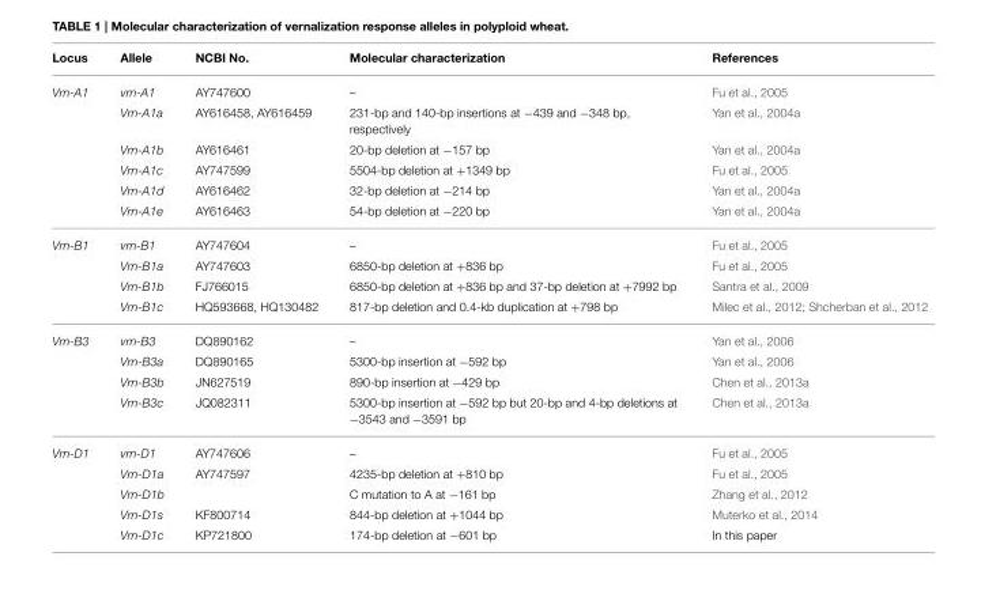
<table><thead><tr><td>Locus</td><td>Allele</td><td>NCBI No.</td><td>Molecular characterization</td><td>References</td></tr></thead><tbody><tr><td rowspan="6">Vrn-A1</td><td>vrn-A1</td><td>AY747600</td><td>–</td><td>Fu et al., 2005</td></tr><tr><td>Vrn-A1a</td><td>AY616458, AY616459</td><td>231-bp and 140-bp insertions at −439 and −348 bp, respectively</td><td>Yan et al., 2004a</td></tr><tr><td>Vrn-A1b</td><td>AY616461</td><td>20-bp deletion at −157 bp</td><td>Yan et al., 2004a</td></tr><tr><td>Vrn-A1c</td><td>AY747599</td><td>5504-bp deletion at +1349 bp</td><td>Fu et al., 2005</td></tr><tr><td>Vrn-A1d</td><td>AY616462</td><td>32-bp deletion at −214 bp</td><td>Yan et al., 2004a</td></tr><tr><td>Vrn-A1e</td><td>AY616463</td><td>54-bp deletion at −220 bp</td><td>Yan et al., 2004a</td></tr><tr><td rowspan="4">Vrn-B1</td><td>vrn-B1</td><td>AY747604</td><td>–</td><td>Fu et al., 2005</td></tr><tr><td>Vrn-B1a</td><td>AY747603</td><td>6850-bp deletion at +836 bp</td><td>Fu et al., 2005</td></tr><tr><td>Vrn-B1b</td><td>FJ766015</td><td>6850-bp deletion at +836 bp and 37-bp deletion at +7992 bp</td><td>Santra et al., 2009</td></tr><tr><td>Vrn-B1c</td><td>HQ593668, HQ130482</td><td>817-bp deletion and 0.4-kb duplication at +798 bp</td><td>Milec et al., 2012; Shcherban et al., 2012</td></tr><tr><td rowspan="4">Vrn-B3</td><td>vrn-B3</td><td>DQ890162</td><td>–</td><td>Yan et al., 2006</td></tr><tr><td>Vrn-B3a</td><td>DQ890165</td><td>5300-bp insertion at −592 bp</td><td>Yan et al., 2006</td></tr><tr><td>Vrn-B3b</td><td>JN627519</td><td>890-bp insertion at −429 bp</td><td>Chen et al., 2013a</td></tr><tr><td>Vrn-B3c</td><td>JQ082311</td><td>5300-bp insertion at −592 bp but 20-bp and 4-bp deletions at −3543 and −3591 bp</td><td>Chen et al., 2013a</td></tr><tr><td rowspan="5">Vrn-D1</td><td>vrn-D1</td><td>AY747606</td><td>–</td><td>Fu et al., 2005</td></tr><tr><td>Vrn-D1a</td><td>AY747597</td><td>4235-bp deletion at +810 bp</td><td>Fu et al., 2005</td></tr><tr><td>Vrn-D1b</td><td></td><td>C mutation to A at −161 bp</td><td>Zhang et al., 2012</td></tr><tr><td>Vrn-D1s</td><td>KF800714</td><td>844-bp deletion at +1044 bp</td><td>Muterko et al., 2014</td></tr><tr><td>Vrn-D1c</td><td>KP721800</td><td>174-bp deletion at −601 bp</td><td>In this paper</td></tr></tbody></table>